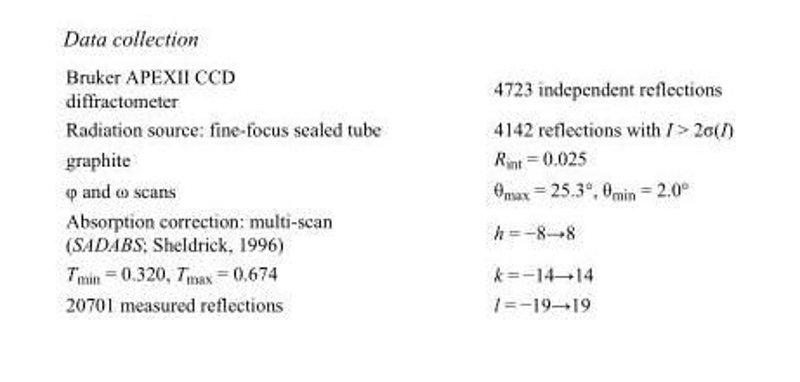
<table><tbody><tr><td>Bruker APEXII CCD diffractometer</td><td>4723 independent reflections</td></tr><tr><td>Radiation source: fine-focus sealed tube</td><td>4142 reflections with I &gt; 2σ(I)</td></tr><tr><td>graphite</td><td>R<sub>int</sub> = 0.025</td></tr><tr><td>φ and ω scans</td><td>θ<sub>max</sub> = 25.3°, θ<sub>min</sub> = 2.0°</td></tr><tr><td>Absorption correction: multi-scan (SADABS; Sheldrick, 1996)</td><td>h = −8→8</td></tr><tr><td>T<sub>min</sub> = 0.320, T<sub>max</sub> = 0.674</td><td>k = −14→14</td></tr><tr><td>20701 measured reflections</td><td>l = −19→19</td></tr></tbody></table>